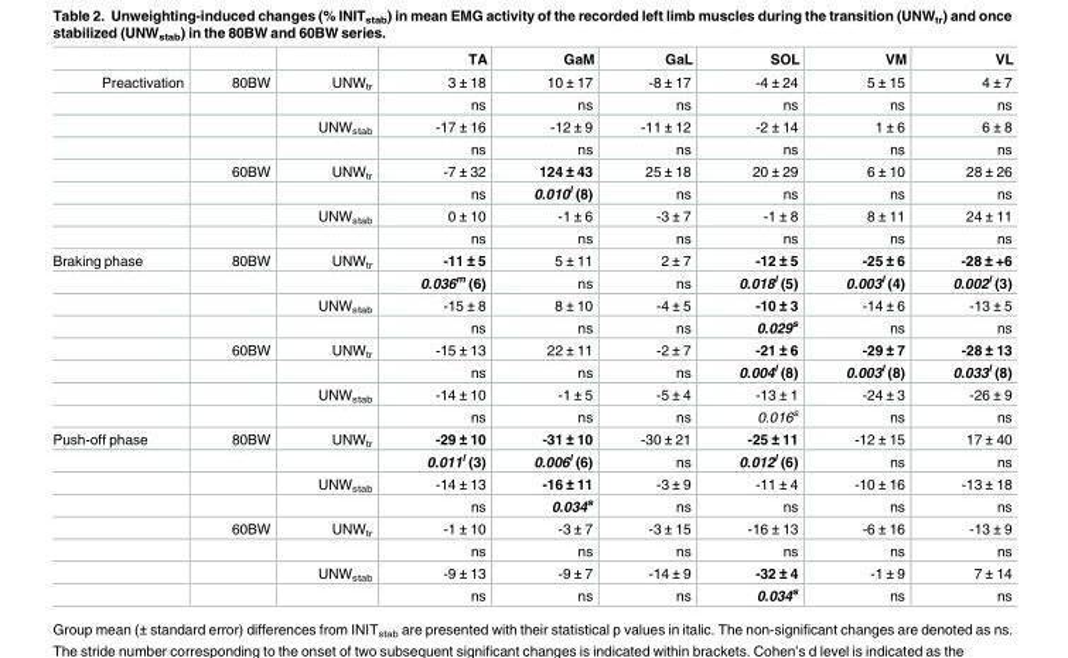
<table><thead><tr><td></td><td></td><td></td><td>TA</td><td>GaM</td><td>GaL</td><td>SOL</td><td>VM</td><td>VL</td></tr></thead><tbody><tr><td rowspan="8">Preactivation</td><td>80BW</td><td>UNW<sub>tr</sub></td><td>3 ± 18</td><td>10 ± 17</td><td>-8 ± 17</td><td>-4 ± 24</td><td>5 ± 15</td><td>4 ± 7</td></tr><tr><td></td><td></td><td>ns</td><td>ns</td><td>ns</td><td>ns</td><td>ns</td><td>ns</td></tr><tr><td></td><td>UNW<sub>stab</sub></td><td>-17 ± 16</td><td>-12 ± 9</td><td>-11 ± 12</td><td>-2 ± 14</td><td>1 ± 6</td><td>6 ± 8</td></tr><tr><td></td><td></td><td>ns</td><td>ns</td><td>ns</td><td>ns</td><td>ns</td><td>ns</td></tr><tr><td>60BW</td><td>UNW<sub>tr</sub></td><td>-7 ± 32</td><td>124 ± 43</td><td>25 ± 18</td><td>20 ± 29</td><td>6 ± 10</td><td>28 ± 26</td></tr><tr><td></td><td></td><td>ns</td><td>0.010<sup>l</sup> (8)</td><td>ns</td><td>ns</td><td>ns</td><td>ns</td></tr><tr><td></td><td>UNW<sub>stab</sub></td><td>0 ± 10</td><td>-1 ± 6</td><td>-3 ± 7</td><td>-1 ± 8</td><td>8 ± 11</td><td>24 ± 11</td></tr><tr><td></td><td></td><td>ns</td><td>ns</td><td>ns</td><td>ns</td><td>ns</td><td>ns</td></tr><tr><td rowspan="8">Braking phase</td><td>80BW</td><td>UNW<sub>tr</sub></td><td>-11 ± 5</td><td>5 ± 11</td><td>2 ± 7</td><td>-12 ± 5</td><td>-25 ± 6</td><td>-28 ± +6</td></tr><tr><td></td><td></td><td>0.036<sup>m</sup> (6)</td><td>ns</td><td>ns</td><td>0.018<sup>l</sup> (5)</td><td>0.003<sup>l</sup> (4)</td><td>0.002<sup>l</sup> (3)</td></tr><tr><td></td><td>UNW<sub>stab</sub></td><td>-15 ± 8</td><td>8 ± 10</td><td>-4 ± 5</td><td>-10 ± 3</td><td>-14 ± 6</td><td>-13 ± 5</td></tr><tr><td></td><td></td><td>ns</td><td>ns</td><td>ns</td><td>0.029<sup>s</sup></td><td>ns</td><td>ns</td></tr><tr><td>60BW</td><td>UNW<sub>tr</sub></td><td>-15 ± 13</td><td>22 ± 11</td><td>-2 ± 7</td><td>-21 ± 6</td><td>-29 ± 7</td><td>-28 ± 13</td></tr><tr><td></td><td></td><td>ns</td><td>ns</td><td>ns</td><td>0.004<sup>l</sup> (8)</td><td>0.003<sup>l</sup> (8)</td><td>0.033<sup>l</sup> (8)</td></tr><tr><td></td><td>UNW<sub>stab</sub></td><td>-14 ± 10</td><td>-1 ± 5</td><td>-5 ± 4</td><td>-13 ± 1</td><td>-24 ± 3</td><td>-26 ± 9</td></tr><tr><td></td><td></td><td>ns</td><td>ns</td><td>ns</td><td>0.016<sup>s</sup></td><td>ns</td><td>ns</td></tr><tr><td rowspan="8">Push-off phase</td><td>80BW</td><td>UNW<sub>tr</sub></td><td>-29 ± 10</td><td>-31 ± 10</td><td>-30 ± 21</td><td>-25 ± 11</td><td>-12 ± 15</td><td>17 ± 40</td></tr><tr><td></td><td></td><td>0.011<sup>l</sup> (3)</td><td>0.006<sup>l</sup> (6)</td><td>ns</td><td>0.012<sup>l</sup> (6)</td><td>ns</td><td>ns</td></tr><tr><td></td><td>UNW<sub>stab</sub></td><td>-14 ± 13</td><td>-16 ± 11</td><td>-3 ± 9</td><td>-11 ± 4</td><td>-10 ± 16</td><td>-13 ± 18</td></tr><tr><td></td><td></td><td>ns</td><td>0.034<sup>s</sup></td><td>ns</td><td>ns</td><td>ns</td><td>ns</td></tr><tr><td>60BW</td><td>UNW<sub>tr</sub></td><td>-1 ± 10</td><td>-3 ± 7</td><td>-3 ± 15</td><td>-16 ± 13</td><td>-6 ± 16</td><td>-13 ± 9</td></tr><tr><td></td><td></td><td>ns</td><td>ns</td><td>ns</td><td>ns</td><td>ns</td><td>ns</td></tr><tr><td></td><td>UNW<sub>stab</sub></td><td>-9 ± 13</td><td>-9 ± 7</td><td>-14 ± 9</td><td>-32 ± 4</td><td>-1 ± 9</td><td>7 ± 14</td></tr><tr><td></td><td></td><td>ns</td><td>ns</td><td>ns</td><td>0.034<sup>s</sup></td><td>ns</td><td>ns</td></tr></tbody></table>